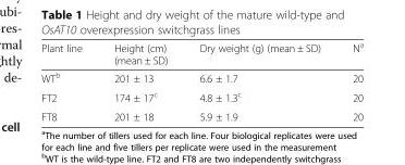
<table><thead><tr><td>Plant line</td><td>Height (cm) (mean ± SD)</td><td>Dry weight (g) (mean ± SD)</td><td>N<sup>a</sup></td></tr></thead><tbody><tr><td>WT<sup>b</sup></td><td>201 ± 13</td><td>6.6 ± 1.7</td><td>20</td></tr><tr><td>FT2</td><td>174 ± 17<sup>c</sup></td><td>4.8 ± 1.3<sup>c</sup></td><td>20</td></tr><tr><td>FT8</td><td>201 ± 18</td><td>5.9 ± 1.9</td><td>20</td></tr></tbody></table>